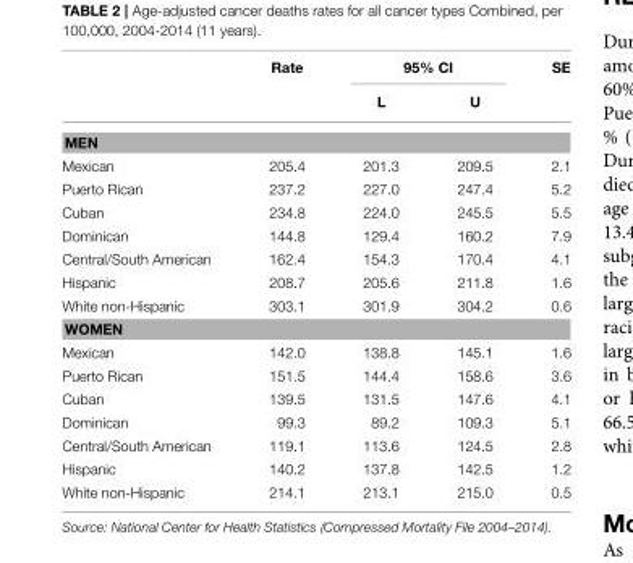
<table><thead><tr><td rowspan="2"></td><td rowspan="2">Rate</td><td colspan="2">95% CI</td><td rowspan="2">SE</td></tr><tr><td>L</td><td>U</td></tr></thead><tbody><tr><td colspan="5">MEN</td></tr><tr><td>Mexican</td><td>205.4</td><td>201.3</td><td>209.5</td><td>2.1</td></tr><tr><td>Puerto Rican</td><td>237.2</td><td>227.0</td><td>247.4</td><td>5.2</td></tr><tr><td>Cuban</td><td>234.8</td><td>224.0</td><td>245.5</td><td>5.5</td></tr><tr><td>Dominican</td><td>144.8</td><td>129.4</td><td>160.2</td><td>7.9</td></tr><tr><td>Central/South American</td><td>162.4</td><td>154.3</td><td>170.4</td><td>4.1</td></tr><tr><td>Hispanic</td><td>208.7</td><td>205.6</td><td>211.8</td><td>1.6</td></tr><tr><td>White non-Hispanic</td><td>303.1</td><td>301.9</td><td>304.2</td><td>0.6</td></tr><tr><td colspan="5">WOMEN</td></tr><tr><td>Mexican</td><td>142.0</td><td>138.8</td><td>145.1</td><td>1.6</td></tr><tr><td>Puerto Rican</td><td>151.5</td><td>144.4</td><td>158.6</td><td>3.6</td></tr><tr><td>Cuban</td><td>139.5</td><td>131.5</td><td>147.6</td><td>4.1</td></tr><tr><td>Dominican</td><td>99.3</td><td>89.2</td><td>109.3</td><td>5.1</td></tr><tr><td>Central/South American</td><td>119.1</td><td>113.6</td><td>124.5</td><td>2.8</td></tr><tr><td>Hispanic</td><td>140.2</td><td>137.8</td><td>142.5</td><td>1.2</td></tr><tr><td>White non-Hispanic</td><td>214.1</td><td>213.1</td><td>215.0</td><td>0.5</td></tr></tbody></table>